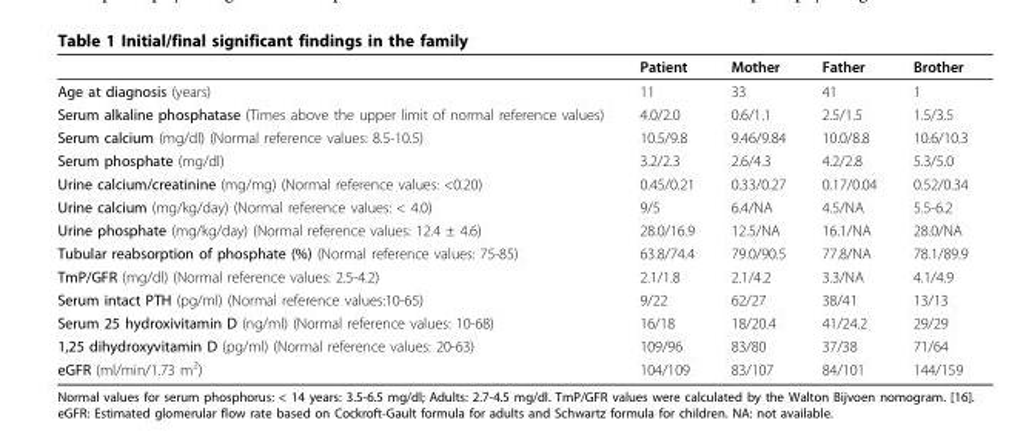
<table><thead><tr><td></td><td>Patient</td><td>Mother</td><td>Father</td><td>Brother</td></tr></thead><tbody><tr><td>Age at diagnosis (years)</td><td>11</td><td>33</td><td>41</td><td>1</td></tr><tr><td>Serum alkaline phosphatase (Times above the upper limit of normal reference values)</td><td>4.0/2.0</td><td>0.6/1.1</td><td>2.5/1.5</td><td>1.5/3.5</td></tr><tr><td>Serum calcium (mg/dl) (Normal reference values: 8.5-10.5)</td><td>10.5/9.8</td><td>9.46/9.84</td><td>10.0/8.8</td><td>10.6/10.3</td></tr><tr><td>Serum phosphate (mg/dl)</td><td>3.2/2.3</td><td>2.6/4.3</td><td>4.2/2.8</td><td>5.3/5.0</td></tr><tr><td>Urine calcium/creatinine (mg/mg) (Normal reference values: &lt;0.20)</td><td>0.45/0.21</td><td>0.33/0.27</td><td>0.17/0.04</td><td>0.52/0.34</td></tr><tr><td>Urine calcium (mg/kg/day) (Normal reference values: &lt; 4.0)</td><td>9/5</td><td>6.4/NA</td><td>4.5/NA</td><td>5.5-6.2</td></tr><tr><td>Urine phosphate (mg/kg/day) (Normal reference values: 12.4 ± 4.6)</td><td>28.0/16.9</td><td>12.5/NA</td><td>16.1/NA</td><td>28.0/NA</td></tr><tr><td>Tubular reabsorption of phosphate (%) (Normal reference values: 75-85)</td><td>63.8/74.4</td><td>79.0/90.5</td><td>77.8/NA</td><td>78.1/89.9</td></tr><tr><td>TmP/GFR (mg/dl) (Normal reference values: 2.5-4.2)</td><td>2.1/1.8</td><td>2.1/4.2</td><td>3.3/NA</td><td>4.1/4.9</td></tr><tr><td>Serum intact PTH (pg/ml) (Normal reference values:10-65)</td><td>9/22</td><td>62/27</td><td>38/41</td><td>13/13</td></tr><tr><td>Serum 25 hydroxivitamin D (ng/ml) (Normal reference values: 10-68)</td><td>16/18</td><td>18/20.4</td><td>41/24.2</td><td>29/29</td></tr><tr><td>1,25 dihydroxyvitamin D (pg/ml) (Normal reference values: 20-63)</td><td>109/96</td><td>83/80</td><td>37/38</td><td>71/64</td></tr><tr><td>eGFR (ml/min/1.73 m<sup>2</sup>)</td><td>104/109</td><td>83/107</td><td>84/101</td><td>144/159</td></tr></tbody></table>